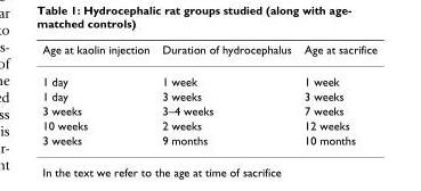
<table><thead><tr><td>Age at kaolin injection</td><td>Duration of hydrocephalus</td><td>Age at sacrifice</td></tr></thead><tbody><tr><td>1 day</td><td>1 week</td><td>1 week</td></tr><tr><td>1 day</td><td>3 weeks</td><td>3 weeks</td></tr><tr><td>3 weeks</td><td>3–4 weeks</td><td>7 weeks</td></tr><tr><td>10 weeks</td><td>2 weeks</td><td>12 weeks</td></tr><tr><td>3 weeks</td><td>9 months</td><td>10 months</td></tr></tbody></table>